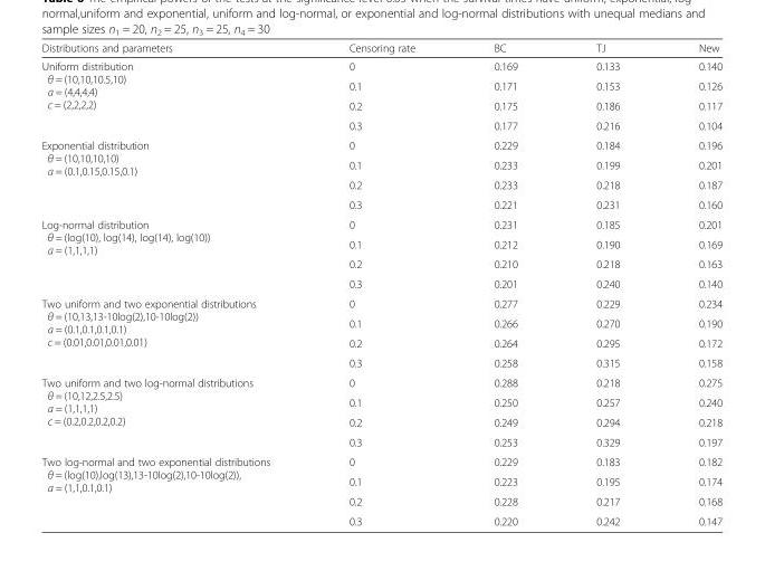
<table><thead><tr><td>Distributions and parameters</td><td>Censoring rate</td><td>BC</td><td>TJ</td><td>New</td></tr></thead><tbody><tr><td rowspan="4">Uniform distribution θ = (10,10,10.5,10) a = (4,4,4,4) c = (2,2,2,2)</td><td>0</td><td>0.169</td><td>0.133</td><td>0.140</td></tr><tr><td>0.1</td><td>0.171</td><td>0.153</td><td>0.126</td></tr><tr><td>0.2</td><td>0.175</td><td>0.186</td><td>0.117</td></tr><tr><td>0.3</td><td>0.177</td><td>0.216</td><td>0.104</td></tr><tr><td rowspan="4">Exponential distribution θ = (10,10,10,10) a = (0.1,0.15,0.15,0.1)</td><td>0</td><td>0.229</td><td>0.184</td><td>0.196</td></tr><tr><td>0.1</td><td>0.233</td><td>0.199</td><td>0.201</td></tr><tr><td>0.2</td><td>0.233</td><td>0.218</td><td>0.187</td></tr><tr><td>0.3</td><td>0.221</td><td>0.231</td><td>0.160</td></tr><tr><td rowspan="4">Log-normal distribution θ = (log(10), log(14), log(14), log(10)) a = (1,1,1,1)</td><td>0</td><td>0.231</td><td>0.185</td><td>0.201</td></tr><tr><td>0.1</td><td>0.212</td><td>0.190</td><td>0.169</td></tr><tr><td>0.2</td><td>0.210</td><td>0.218</td><td>0.163</td></tr><tr><td>0.3</td><td>0.201</td><td>0.240</td><td>0.140</td></tr><tr><td rowspan="4">Two uniform and two exponential distributions θ = (10,13,13-10log(2),10-10log(2)) a = (0.1,0.1,0.1,0.1) c = (0.01,0.01,0.01,0.01)</td><td>0</td><td>0.277</td><td>0.229</td><td>0.234</td></tr><tr><td>0.1</td><td>0.266</td><td>0.270</td><td>0.190</td></tr><tr><td>0.2</td><td>0.264</td><td>0.295</td><td>0.172</td></tr><tr><td>0.3</td><td>0.258</td><td>0.315</td><td>0.158</td></tr><tr><td rowspan="4">Two uniform and two log-normal distributions θ = (10,12,2.5,2.5) a = (1,1,1,1) c = (0.2,0.2,0.2,0.2)</td><td>0</td><td>0.288</td><td>0.218</td><td>0.275</td></tr><tr><td>0.1</td><td>0.250</td><td>0.257</td><td>0.240</td></tr><tr><td>0.2</td><td>0.249</td><td>0.294</td><td>0.218</td></tr><tr><td>0.3</td><td>0.253</td><td>0.329</td><td>0.197</td></tr><tr><td rowspan="4">Two log-normal and two exponential distributions θ = (log(10),log(13),13-10log(2),10-10log(2)), a = (1,1,0.1,0.1)</td><td>0</td><td>0.229</td><td>0.183</td><td>0.182</td></tr><tr><td>0.1</td><td>0.223</td><td>0.195</td><td>0.174</td></tr><tr><td>0.2</td><td>0.228</td><td>0.217</td><td>0.168</td></tr><tr><td>0.3</td><td>0.220</td><td>0.242</td><td>0.147</td></tr></tbody></table>